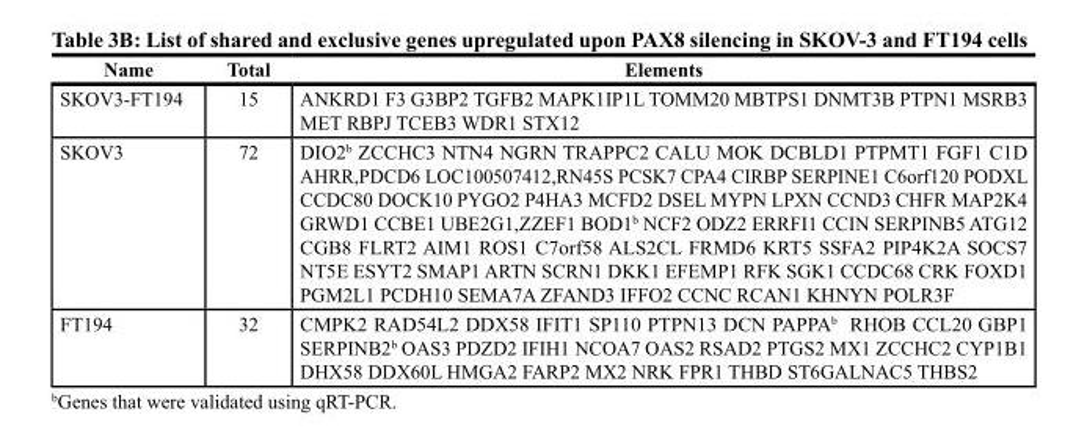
<table><thead><tr><td>Name</td><td>Total</td><td>Elements</td></tr></thead><tbody><tr><td>SKOV3-FT194</td><td>15</td><td>ANKRD1 F3 G3BP2 TGFB2 MAPK1IP1L TOMM20 MBTPS1 DNMT3B PTPN1 MSRB3 MET RBPJ TCEB3 WDR1 STX12</td></tr><tr><td>SKOV3</td><td>72</td><td>DIO2<sup>b</sup> ZCCHC3 NTN4 NGRN TRAPPC2 CALU MOK DCBLD1 PTPMT1 FGF1 C1D AHRR,PDCD6 LOC100507412,RN45S PCSK7 CPA4 CIRBP SERPINE1 C6orf120 PODXL CCDC80 DOCK10 PYGO2 P4HA3 MCFD2 DSEL MYPN LPXN CCND3 CHFR MAP2K4 GRWD1 CCBE1 UBE2G1,ZZEF1 BOD1<sup>b</sup> NCF2 ODZ2 ERRFI1 CCIN SERPINB5 ATG12 CGB8 FLRT2 AIM1 ROS1 C7orf58 ALS2CL FRMD6 KRT5 SSFA2 PIP4K2A SOCS7 NT5E ESYT2 SMAP1 ARTN SCRN1 DKK1 EFEMP1 RFK SGK1 CCDC68 CRK FOXD1 PGM2L1 PCDH10 SEMA7A ZFAND3 IFFO2 CCNC RCAN1 KHNYN POLR3F</td></tr><tr><td>FT194</td><td>32</td><td>CMPK2 RAD54L2 DDX58 IFIT1 SP110 PTPN13 DCN PAPPA<sup>b</sup> RHOB CCL20 GBP1 SERPINB2<sup>b</sup> OAS3 PDZD2 IFIH1 NCOA7 OAS2 RSAD2 PTGS2 MX1 ZCCHC2 CYP1B1 DHX58 DDX60L HMGA2 FARP2 MX2 NRK FPR1 THBD ST6GALNAC5 THBS2</td></tr></tbody></table>